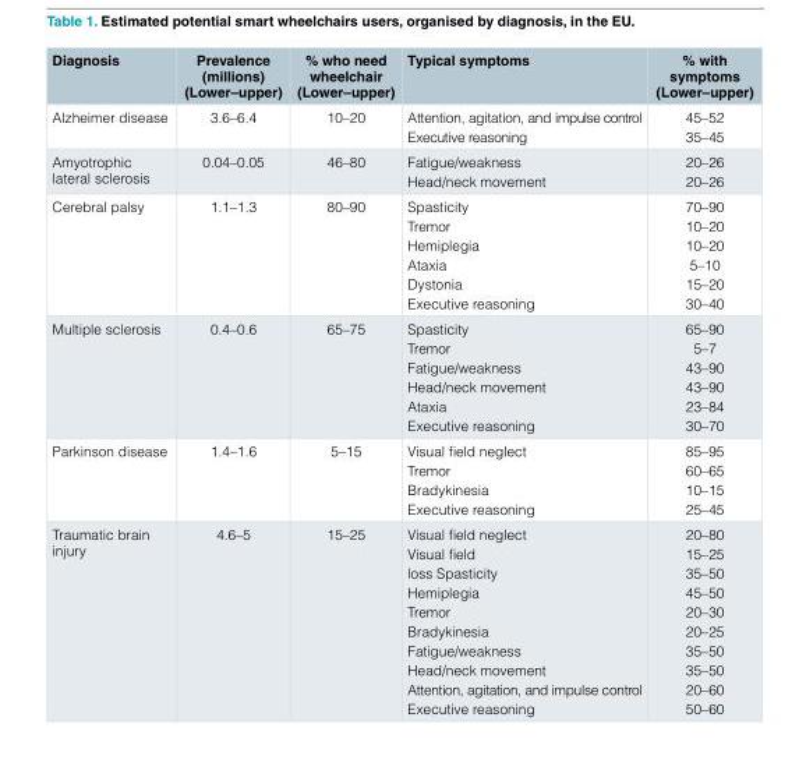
<table><thead><tr><td>Diagnosis</td><td>Prevalence (millions) (Lower–upper)</td><td>% who need wheelchair (Lower–upper)</td><td>Typical symptoms</td><td>% with symptoms (Lower–upper)</td></tr></thead><tbody><tr><td>Alzheimer disease</td><td>3.6–6.4</td><td>10–20</td><td>Attention, agitation, and impulse control Executive reasoning</td><td>45–52 35–45</td></tr><tr><td>Amyotrophic lateral sclerosis</td><td>0.04–0.05</td><td>46–80</td><td>Fatigue/weakness Head/neck movement</td><td>20–26 20–26</td></tr><tr><td>Cerebral palsy</td><td>1.1–1.3</td><td>80–90</td><td>Spasticity Tremor Hemiplegia Ataxia Dystonia Executive reasoning</td><td>70–90 10–20 10–20 5–10 15–20 30–40</td></tr><tr><td>Multiple sclerosis</td><td>0.4–0.6</td><td>65–75</td><td>Spasticity Tremor Fatigue/weakness Head/neck movement Ataxia Executive reasoning</td><td>65–90 5–7 43–90 43–90 23–84 30–70</td></tr><tr><td>Parkinson disease</td><td>1.4–1.6</td><td>5–15</td><td>Visual field neglect Tremor Bradykinesia Executive reasoning</td><td>85–95 60–65 10–15 25–45</td></tr><tr><td>Traumatic brain injury</td><td>4.6–5</td><td>15–25</td><td>Visual field neglect Visual field loss Spasticity Hemiplegia Tremor Bradykinesia Fatigue/weakness Head/neck movement Attention, agitation, and impulse control Executive reasoning</td><td>20–80 15–25 35–50 45–50 20–30 20–25 35–50 35–50 20–60 50–60</td></tr></tbody></table>